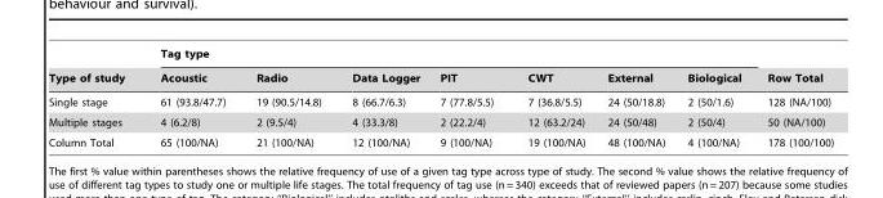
<table><thead><tr><td rowspan="2">Type of study</td><td colspan="7">Tag type</td><td rowspan="2">Row Total</td></tr><tr><td>Acoustic</td><td>Radio</td><td>Data Logger</td><td>PIT</td><td>CWT</td><td>External</td><td>Biological</td></tr></thead><tbody><tr><td>Single stage</td><td>61 (93.8/47.7)</td><td>19 (90.5/14.8)</td><td>8 (66.7/6.3)</td><td>7 (77.8/5.5)</td><td>7 (36.8/5.5)</td><td>24 (50/18.8)</td><td>2 (50/1.6)</td><td>128 (NA/100)</td></tr><tr><td>Multiple stages</td><td>4 (6.2/8)</td><td>2 (9.5/4)</td><td>4 (33.3/8)</td><td>2 (22.2/4)</td><td>12 (63.2/24)</td><td>24 (50/48)</td><td>2 (50/4)</td><td>50 (NA/100)</td></tr><tr><td>Column Total</td><td>65 (100/NA)</td><td>21 (100/NA)</td><td>12 (100/NA)</td><td>9 (100/NA)</td><td>19 (100/NA)</td><td>48 (100/NA)</td><td>4 (100/NA)</td><td>178 (100/100)</td></tr></tbody></table>